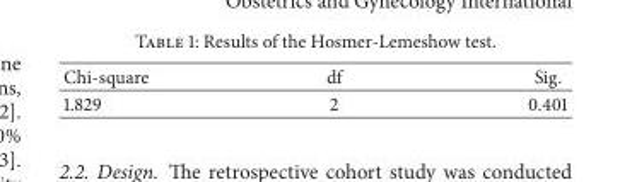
<table><thead><tr><td>Chi-square</td><td>df</td><td>Sig.</td></tr></thead><tbody><tr><td>1.829</td><td>2</td><td>0.401</td></tr></tbody></table>